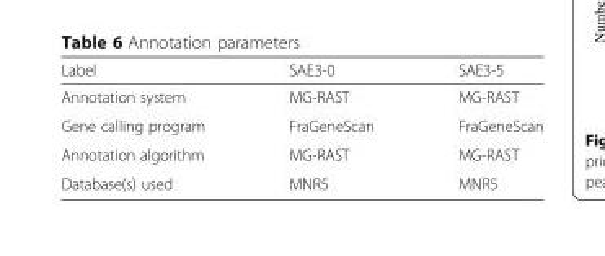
<table><thead><tr><td>Label</td><td>SAE3-0</td><td>SAE3-5</td></tr></thead><tbody><tr><td>Annotation system</td><td>MG-RAST</td><td>MG-RAST</td></tr><tr><td>Gene calling program</td><td>FraGeneScan</td><td>FraGeneScan</td></tr><tr><td>Annotation algorithm</td><td>MG-RAST</td><td>MG-RAST</td></tr><tr><td>Database(s) used</td><td>MNR5</td><td>MNR5</td></tr></tbody></table>